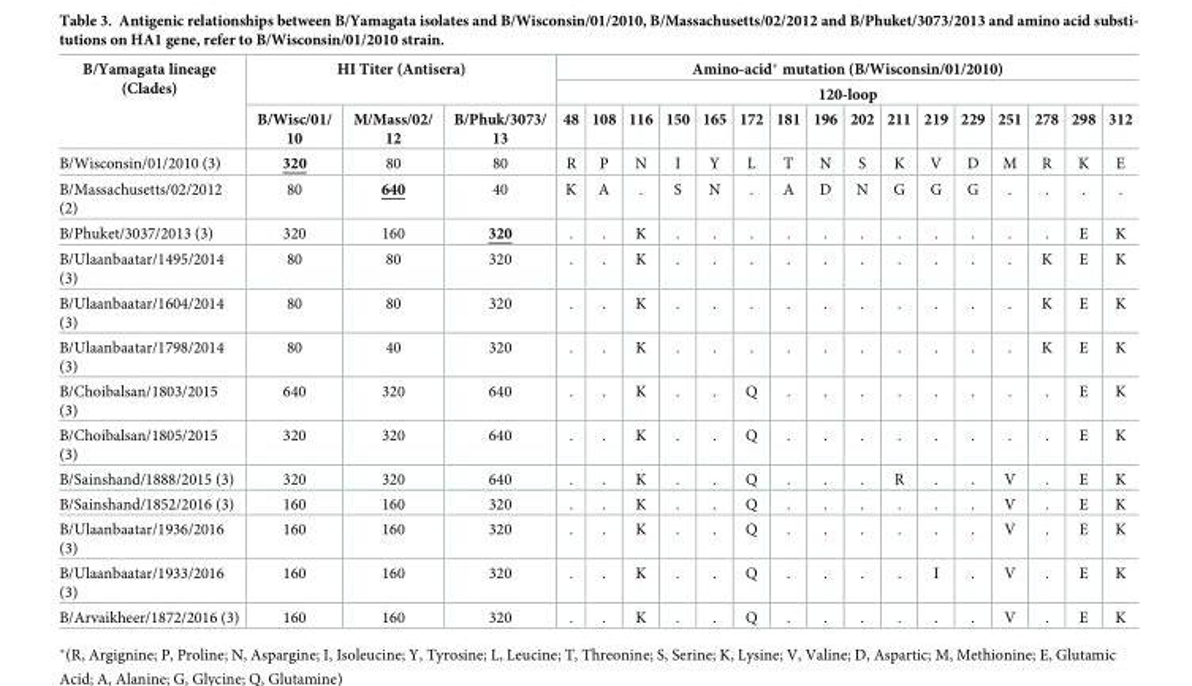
<table><thead><tr><td rowspan="3">B/Yamagata lineage (Clades)</td><td rowspan="2" colspan="3">HI Titer (Antisera)</td><td rowspan="2" colspan="16">Amino-acid* mutation (B/Wisconsin/01/2010) 120-loop</td></tr><tr></tr><tr><td>B/Wisc/01/ 10</td><td>M/Mass/02/ 12</td><td>B/Phuk/3073/ 13</td><td>48</td><td>108</td><td>116</td><td>150</td><td>165</td><td>172</td><td>181</td><td>196</td><td>202</td><td>211</td><td>219</td><td>229</td><td>251</td><td>278</td><td>298</td><td>312</td></tr></thead><tbody><tr><td>B/Wisconsin/01/2010 (3)</td><td>320</td><td>80</td><td>80</td><td>R</td><td>P</td><td>N</td><td>I</td><td>Y</td><td>L</td><td>T</td><td>N</td><td>S</td><td>K</td><td>V</td><td>D</td><td>M</td><td>R</td><td>K</td><td>E</td></tr><tr><td>B/Massachusetts/02/2012 (2)</td><td>80</td><td>640</td><td>40</td><td>K</td><td>A</td><td>.</td><td>S</td><td>N</td><td>.</td><td>A</td><td>D</td><td>N</td><td>G</td><td>G</td><td>G</td><td>.</td><td>.</td><td>.</td><td>.</td></tr><tr><td>B/Phuket/3037/2013 (3)</td><td>320</td><td>160</td><td>320</td><td>.</td><td>.</td><td>K</td><td>.</td><td>.</td><td>.</td><td>.</td><td>.</td><td>.</td><td>.</td><td>.</td><td>.</td><td>.</td><td>.</td><td>E</td><td>K</td></tr><tr><td>B/Ulaanbaatar/1495/2014 (3)</td><td>80</td><td>80</td><td>320</td><td>.</td><td>.</td><td>K</td><td>.</td><td>.</td><td>.</td><td>.</td><td>.</td><td>.</td><td>.</td><td>.</td><td>.</td><td>.</td><td>K</td><td>E</td><td>K</td></tr><tr><td>B/Ulaanbaatar/1604/2014 (3)</td><td>80</td><td>80</td><td>320</td><td>.</td><td>.</td><td>K</td><td>.</td><td>.</td><td>.</td><td>.</td><td>.</td><td>.</td><td>.</td><td>.</td><td>.</td><td>.</td><td>K</td><td>E</td><td>K</td></tr><tr><td>B/Ulaanbaatar/1798/2014 (3)</td><td>80</td><td>40</td><td>320</td><td>.</td><td>.</td><td>K</td><td>.</td><td>.</td><td>.</td><td>.</td><td>.</td><td>.</td><td>.</td><td>.</td><td>.</td><td>.</td><td>K</td><td>E</td><td>K</td></tr><tr><td>B/Choibalsan/1803/2015 (3)</td><td>640</td><td>320</td><td>640</td><td>.</td><td>.</td><td>K</td><td>.</td><td>.</td><td>Q</td><td>.</td><td>.</td><td>.</td><td>.</td><td>.</td><td>.</td><td>.</td><td>.</td><td>E</td><td>K</td></tr><tr><td>B/Choibalsan/1805/2015 (3)</td><td>320</td><td>320</td><td>640</td><td>.</td><td>.</td><td>K</td><td>.</td><td>.</td><td>Q</td><td>.</td><td>.</td><td>.</td><td>.</td><td>.</td><td>.</td><td>.</td><td>.</td><td>E</td><td>K</td></tr><tr><td>B/Sainshand/1888/2015 (3)</td><td>320</td><td>320</td><td>640</td><td>.</td><td>.</td><td>K</td><td>.</td><td>.</td><td>Q</td><td>.</td><td>.</td><td>.</td><td>R</td><td>.</td><td>.</td><td>V</td><td>.</td><td>E</td><td>K</td></tr><tr><td>B/Sainshand/1852/2016 (3)</td><td>160</td><td>160</td><td>320</td><td>.</td><td>.</td><td>K</td><td>.</td><td>.</td><td>Q</td><td>.</td><td>.</td><td>.</td><td>.</td><td>.</td><td>.</td><td>V</td><td>.</td><td>E</td><td>K</td></tr><tr><td>B/Ulaanbaatar/1936/2016 (3)</td><td>160</td><td>160</td><td>320</td><td>.</td><td>.</td><td>K</td><td>.</td><td>.</td><td>Q</td><td>.</td><td>.</td><td>.</td><td>.</td><td>.</td><td>.</td><td>V</td><td>.</td><td>E</td><td>K</td></tr><tr><td>B/Ulaanbaatar/1933/2016 (3)</td><td>160</td><td>160</td><td>320</td><td>.</td><td>.</td><td>K</td><td>.</td><td>.</td><td>Q</td><td>.</td><td>.</td><td>.</td><td>.</td><td>I</td><td>.</td><td>V</td><td>.</td><td>E</td><td>K</td></tr><tr><td>B/Arvaikheer/1872/2016 (3)</td><td>160</td><td>160</td><td>320</td><td>.</td><td>.</td><td>K</td><td>.</td><td>.</td><td>Q</td><td>.</td><td>.</td><td>.</td><td>.</td><td>.</td><td>.</td><td>V</td><td>.</td><td>E</td><td>K</td></tr></tbody></table>